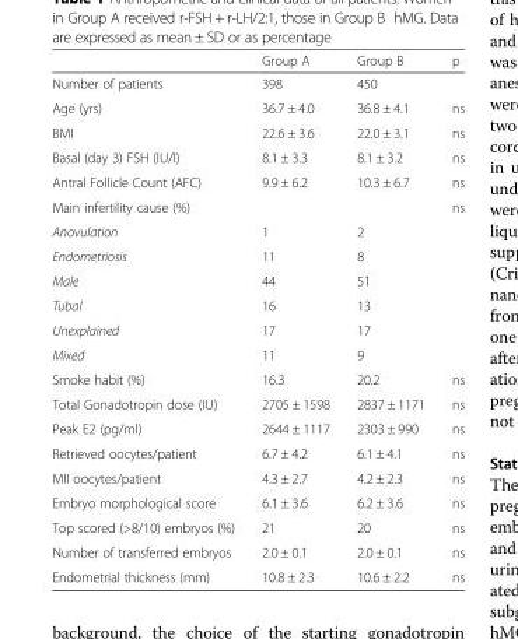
<table><thead><tr><td></td><td>Group A</td><td>Group B</td><td>p</td></tr></thead><tbody><tr><td>Number of patients</td><td>398</td><td>450</td><td></td></tr><tr><td>Age (yrs)</td><td>36.7 ± 4.0</td><td>36.8 ± 4.1</td><td>ns</td></tr><tr><td>BMI</td><td>22.6 ± 3.6</td><td>22.0 ± 3.1</td><td>ns</td></tr><tr><td>Basal (day 3) FSH (IU/l)</td><td>8.1 ± 3.3</td><td>8.1 ± 3.2</td><td>ns</td></tr><tr><td>Antral Follicle Count (AFC)</td><td>9.9 ± 6.2</td><td>10.3 ± 6.7</td><td>ns</td></tr><tr><td>Main infertility cause (%)</td><td></td><td></td><td>ns</td></tr><tr><td>Anovulation</td><td>1</td><td>2</td><td></td></tr><tr><td>Endometriosis</td><td>11</td><td>8</td><td></td></tr><tr><td>Male</td><td>44</td><td>51</td><td></td></tr><tr><td>Tubal</td><td>16</td><td>13</td><td></td></tr><tr><td>Unexplained</td><td>17</td><td>17</td><td></td></tr><tr><td>Mixed</td><td>11</td><td>9</td><td></td></tr><tr><td>Smoke habit (%)</td><td>16.3</td><td>20.2</td><td>ns</td></tr><tr><td>Total Gonadotropin dose (IU)</td><td>2705 ± 1598</td><td>2837 ± 1171</td><td>ns</td></tr><tr><td>Peak E2 (pg/ml)</td><td>2644 ± 1117</td><td>2303 ± 990</td><td>ns</td></tr><tr><td>Retrieved oocytes/patient</td><td>6.7 ± 4.2</td><td>6.1 ± 4.1</td><td>ns</td></tr><tr><td>MII oocytes/patient</td><td>4.3 ± 2.7</td><td>4.2 ± 2.3</td><td>ns</td></tr><tr><td>Embryo morphological score</td><td>6.1 ± 3.6</td><td>6.2 ± 3.6</td><td>ns</td></tr><tr><td>Top scored (&gt;8/10) embryos (%)</td><td>21</td><td>20</td><td>ns</td></tr><tr><td>Number of transferred embryos</td><td>2.0 ± 0.1</td><td>2.0 ± 0.1</td><td>ns</td></tr><tr><td>Endometrial thickness (mm)</td><td>10.8 ± 2.3</td><td>10.6 ± 2.2</td><td>ns</td></tr></tbody></table>